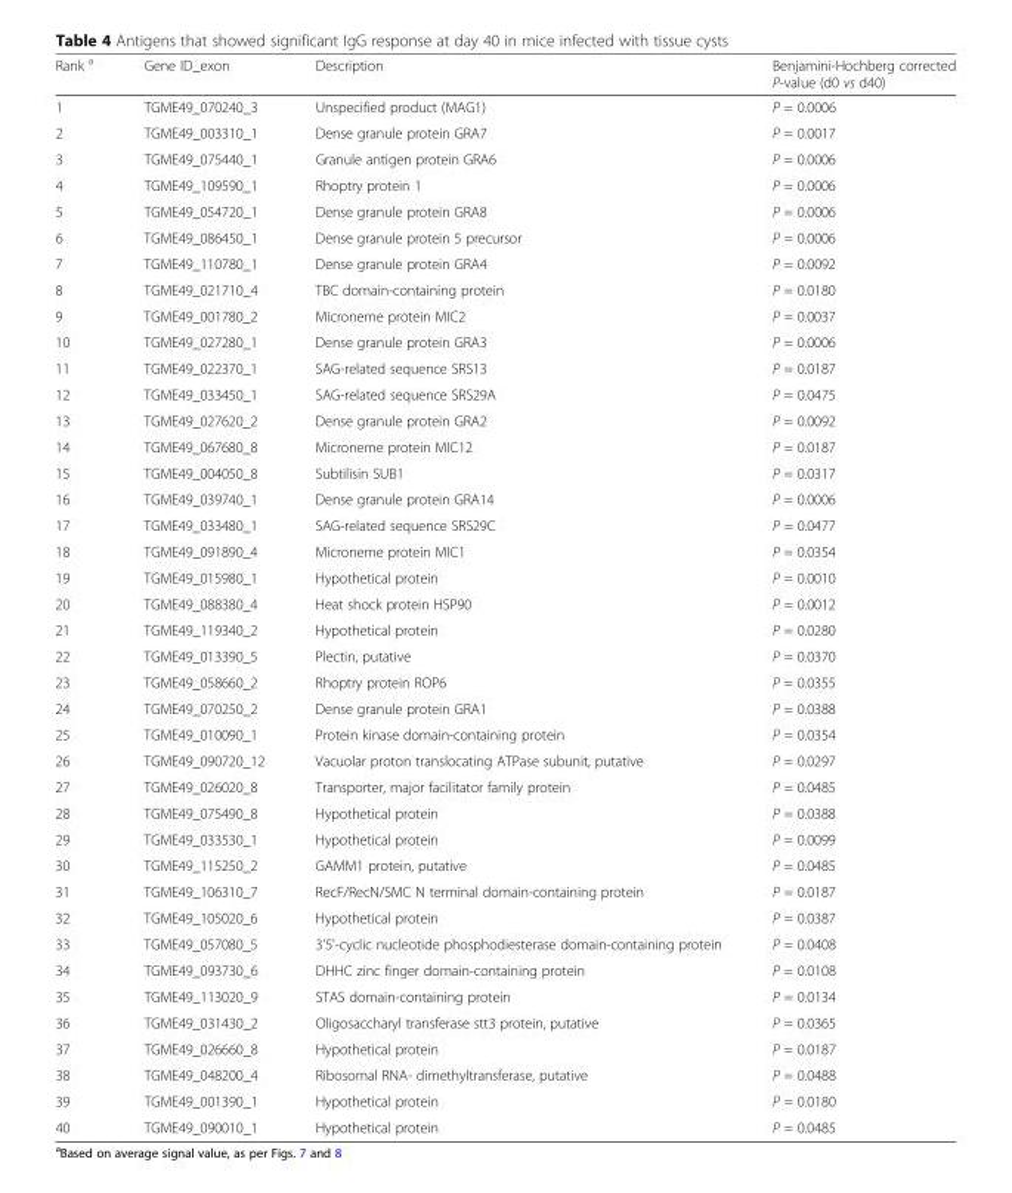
<table><thead><tr><td>Rank <sup>a</sup></td><td>Gene ID_exon</td><td>Description</td><td>Benjamini-Hochberg corrected P-value (d0 vs d40)</td></tr></thead><tbody><tr><td>1</td><td>TGME49_070240_3</td><td>Unspecified product (MAG1)</td><td>P = 0.0006</td></tr><tr><td>2</td><td>TGME49_003310_1</td><td>Dense granule protein GRA7</td><td>P = 0.0017</td></tr><tr><td>3</td><td>TGME49_075440_1</td><td>Granule antigen protein GRA6</td><td>P = 0.0006</td></tr><tr><td>4</td><td>TGME49_109590_1</td><td>Rhoptry protein 1</td><td>P = 0.0006</td></tr><tr><td>5</td><td>TGME49_054720_1</td><td>Dense granule protein GRA8</td><td>P = 0.0006</td></tr><tr><td>6</td><td>TGME49_086450_1</td><td>Dense granule protein 5 precursor</td><td>P = 0.0006</td></tr><tr><td>7</td><td>TGME49_110780_1</td><td>Dense granule protein GRA4</td><td>P = 0.0092</td></tr><tr><td>8</td><td>TGME49_021710_4</td><td>TBC domain-containing protein</td><td>P = 0.0180</td></tr><tr><td>9</td><td>TGME49_001780_2</td><td>Microneme protein MIC2</td><td>P = 0.0037</td></tr><tr><td>10</td><td>TGME49_027280_1</td><td>Dense granule protein GRA3</td><td>P = 0.0006</td></tr><tr><td>11</td><td>TGME49_022370_1</td><td>SAG-related sequence SRS13</td><td>P = 0.0187</td></tr><tr><td>12</td><td>TGME49_033450_1</td><td>SAG-related sequence SRS29A</td><td>P = 0.0475</td></tr><tr><td>13</td><td>TGME49_027620_2</td><td>Dense granule protein GRA2</td><td>P = 0.0092</td></tr><tr><td>14</td><td>TGME49_067680_8</td><td>Microneme protein MIC12</td><td>P = 0.0187</td></tr><tr><td>15</td><td>TGME49_004050_8</td><td>Subtilisin SUB1</td><td>P = 0.0317</td></tr><tr><td>16</td><td>TGME49_039740_1</td><td>Dense granule protein GRA14</td><td>P = 0.0006</td></tr><tr><td>17</td><td>TGME49_033480_1</td><td>SAG-related sequence SRS29C</td><td>P = 0.0477</td></tr><tr><td>18</td><td>TGME49_091890_4</td><td>Microneme protein MIC1</td><td>P = 0.0354</td></tr><tr><td>19</td><td>TGME49_015980_1</td><td>Hypothetical protein</td><td>P = 0.0010</td></tr><tr><td>20</td><td>TGME49_088380_4</td><td>Heat shock protein HSP90</td><td>P = 0.0012</td></tr><tr><td>21</td><td>TGME49_119340_2</td><td>Hypothetical protein</td><td>P = 0.0280</td></tr><tr><td>22</td><td>TGME49_013390_5</td><td>Plectin, putative</td><td>P = 0.0370</td></tr><tr><td>23</td><td>TGME49_058660_2</td><td>Rhoptry protein ROP6</td><td>P = 0.0355</td></tr><tr><td>24</td><td>TGME49_070250_2</td><td>Dense granule protein GRA1</td><td>P = 0.0388</td></tr><tr><td>25</td><td>TGME49_010090_1</td><td>Protein kinase domain-containing protein</td><td>P = 0.0354</td></tr><tr><td>26</td><td>TGME49_090720_12</td><td>Vacuolar proton translocating ATPase subunit, putative</td><td>P = 0.0297</td></tr><tr><td>27</td><td>TGME49_026020_8</td><td>Transporter, major facilitator family protein</td><td>P = 0.0485</td></tr><tr><td>28</td><td>TGME49_075490_8</td><td>Hypothetical protein</td><td>P = 0.0388</td></tr><tr><td>29</td><td>TGME49_033530_1</td><td>Hypothetical protein</td><td>P = 0.0099</td></tr><tr><td>30</td><td>TGME49_115250_2</td><td>GAMM1 protein, putative</td><td>P = 0.0485</td></tr><tr><td>31</td><td>TGME49_106310_7</td><td>RecF/RecN/SMC N terminal domain-containing protein</td><td>P = 0.0187</td></tr><tr><td>32</td><td>TGME49_105020_6</td><td>Hypothetical protein</td><td>P = 0.0387</td></tr><tr><td>33</td><td>TGME49_057080_5</td><td>3&#x27;5&#x27;-cyclic nucleotide phosphodiesterase domain-containing protein</td><td>P = 0.0408</td></tr><tr><td>34</td><td>TGME49_093730_6</td><td>DHHC zinc finger domain-containing protein</td><td>P = 0.0108</td></tr><tr><td>35</td><td>TGME49_113020_9</td><td>STAS domain-containing protein</td><td>P = 0.0134</td></tr><tr><td>36</td><td>TGME49_031430_2</td><td>Oligosaccharyl transferase stt3 protein, putative</td><td>P = 0.0365</td></tr><tr><td>37</td><td>TGME49_026660_8</td><td>Hypothetical protein</td><td>P = 0.0187</td></tr><tr><td>38</td><td>TGME49_048200_4</td><td>Ribosomal RNA- dimethyltransferase, putative</td><td>P = 0.0488</td></tr><tr><td>39</td><td>TGME49_001390_1</td><td>Hypothetical protein</td><td>P = 0.0180</td></tr><tr><td>40</td><td>TGME49_090010_1</td><td>Hypothetical protein</td><td>P = 0.0485</td></tr></tbody></table>